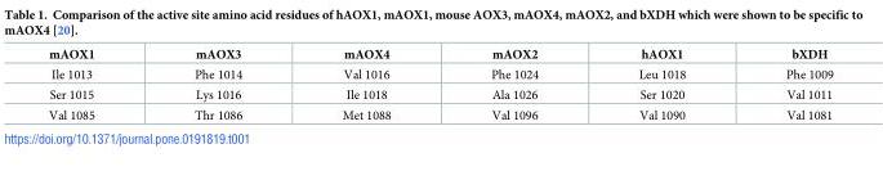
<table><thead><tr><td>mAOX1</td><td>mAOX3</td><td>mAOX4</td><td>mAOX2</td><td>hAOX1</td><td>bXDH</td></tr></thead><tbody><tr><td>Ile 1013</td><td>Phe 1014</td><td>Val 1016</td><td>Phe 1024</td><td>Leu 1018</td><td>Phe 1009</td></tr><tr><td>Ser 1015</td><td>Lys 1016</td><td>Ile 1018</td><td>Ala 1026</td><td>Ser 1020</td><td>Val 1011</td></tr><tr><td>Val 1085</td><td>Thr 1086</td><td>Met 1088</td><td>Val 1096</td><td>Val 1090</td><td>Val 1081</td></tr></tbody></table>